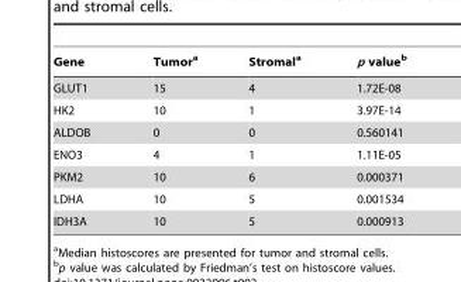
<table><thead><tr><td>Gene</td><td>Tumor<sup>a</sup></td><td>Stromal<sup>a</sup></td><td>p value<sup>b</sup></td></tr></thead><tbody><tr><td>GLUT1</td><td>15</td><td>4</td><td>1.72E-08</td></tr><tr><td>HK2</td><td>10</td><td>1</td><td>3.97E-14</td></tr><tr><td>ALDOB</td><td>0</td><td>0</td><td>0.560141</td></tr><tr><td>ENO3</td><td>4</td><td>1</td><td>1.11E-05</td></tr><tr><td>PKM2</td><td>10</td><td>6</td><td>0.000371</td></tr><tr><td>LDHA</td><td>10</td><td>5</td><td>0.001534</td></tr><tr><td>IDH3A</td><td>10</td><td>5</td><td>0.000913</td></tr></tbody></table>